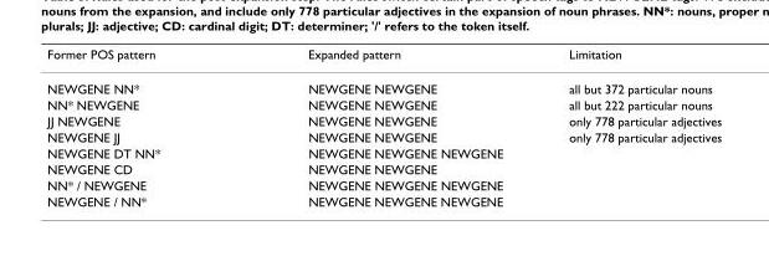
<table><thead><tr><td>Former POS pattern</td><td>Expanded pattern</td><td>Limitation</td></tr></thead><tbody><tr><td>NEWGENE NN*</td><td>NEWGENE NEWGENE</td><td>all but 372 particular nouns</td></tr><tr><td>NN* NEWGENE</td><td>NEWGENE NEWGENE</td><td>all but 222 particular nouns</td></tr><tr><td>JJ NEWGENE</td><td>NEWGENE NEWGENE</td><td>only 778 particular adjectives</td></tr><tr><td>NEWGENE JJ</td><td>NEWGENE NEWGENE</td><td>only 778 particular adjectives</td></tr><tr><td>NEWGENE DT NN*</td><td>NEWGENE NEWGENE NEWGENE</td><td></td></tr><tr><td>NEWGENE CD</td><td>NEWGENE NEWGENE</td><td></td></tr><tr><td>NN* / NEWGENE</td><td>NEWGENE NEWGENE NEWGENE</td><td></td></tr><tr><td>NEWGENE / NN*</td><td>NEWGENE NEWGENE NEWGENE</td><td></td></tr></tbody></table>